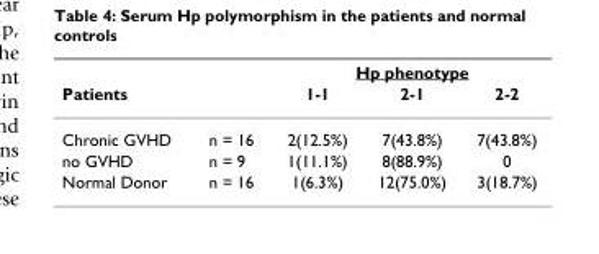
<table><thead><tr><td rowspan="2">Patients</td><td rowspan="2"></td><td colspan="3">Hp phenotype</td></tr><tr><td>1-1</td><td>2-1</td><td>2-2</td></tr></thead><tbody><tr><td>Chronic GVHD</td><td>n = 16</td><td>2(12.5%)</td><td>7(43.8%)</td><td>7(43.8%)</td></tr><tr><td>no GVHD</td><td>n = 9</td><td>1(11.1%)</td><td>8(88.9%)</td><td>0</td></tr><tr><td>Normal Donor</td><td>n = 16</td><td>1(6.3%)</td><td>12(75.0%)</td><td>3(18.7%)</td></tr></tbody></table>